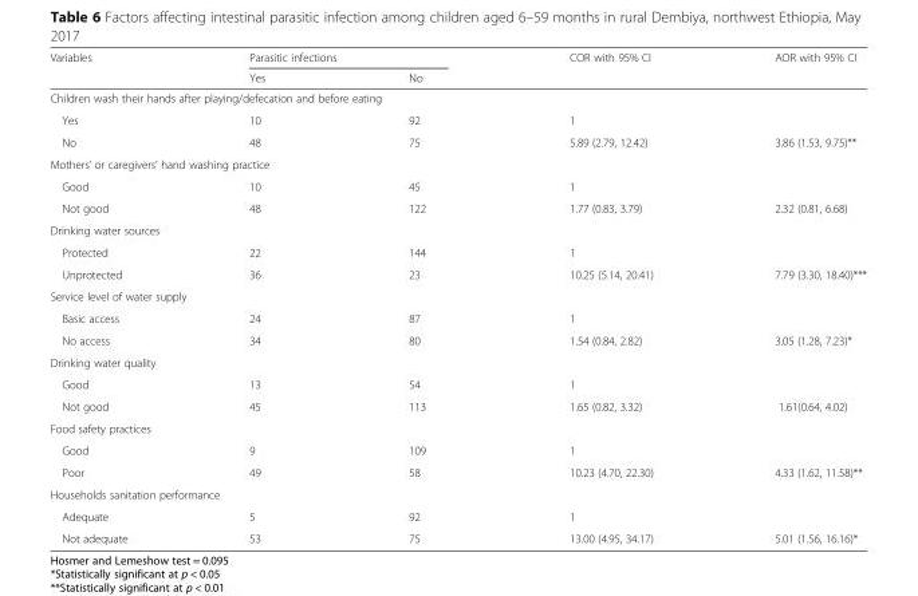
<table><thead><tr><td rowspan="2">Variables</td><td colspan="2">Parasitic infections</td><td rowspan="2">COR with 95% CI</td><td rowspan="2">AOR with 95% CI</td></tr><tr><td>Yes</td><td>No</td></tr></thead><tbody><tr><td colspan="5">Children wash their hands after playing/defecation and before eating</td></tr><tr><td>Yes</td><td>10</td><td>92</td><td>1</td><td></td></tr><tr><td>No</td><td>48</td><td>75</td><td>5.89 (2.79, 12.42)</td><td>3.86 (1.53, 9.75)**</td></tr><tr><td colspan="5">Mothers’ or caregivers’ hand washing practice</td></tr><tr><td>Good</td><td>10</td><td>45</td><td>1</td><td></td></tr><tr><td>Not good</td><td>48</td><td>122</td><td>1.77 (0.83, 3.79)</td><td>2.32 (0.81, 6.68)</td></tr><tr><td colspan="5">Drinking water sources</td></tr><tr><td>Protected</td><td>22</td><td>144</td><td>1</td><td></td></tr><tr><td>Unprotected</td><td>36</td><td>23</td><td>10.25 (5.14, 20.41)</td><td>7.79 (3.30, 18.40)***</td></tr><tr><td colspan="5">Service level of water supply</td></tr><tr><td>Basic access</td><td>24</td><td>87</td><td>1</td><td></td></tr><tr><td>No access</td><td>34</td><td>80</td><td>1.54 (0.84, 2.82)</td><td>3.05 (1.28, 7.23)*</td></tr><tr><td colspan="5">Drinking water quality</td></tr><tr><td>Good</td><td>13</td><td>54</td><td>1</td><td></td></tr><tr><td>Not good</td><td>45</td><td>113</td><td>1.65 (0.82, 3.32)</td><td>1.61(0.64, 4.02)</td></tr><tr><td colspan="5">Food safety practices</td></tr><tr><td>Good</td><td>9</td><td>109</td><td>1</td><td></td></tr><tr><td>Poor</td><td>49</td><td>58</td><td>10.23 (4.70, 22.30)</td><td>4.33 (1.62, 11.58)**</td></tr><tr><td colspan="5">Households sanitation performance</td></tr><tr><td>Adequate</td><td>5</td><td>92</td><td>1</td><td></td></tr><tr><td>Not adequate</td><td>53</td><td>75</td><td>13.00 (4.95, 34.17)</td><td>5.01 (1.56, 16.16)*</td></tr></tbody></table>